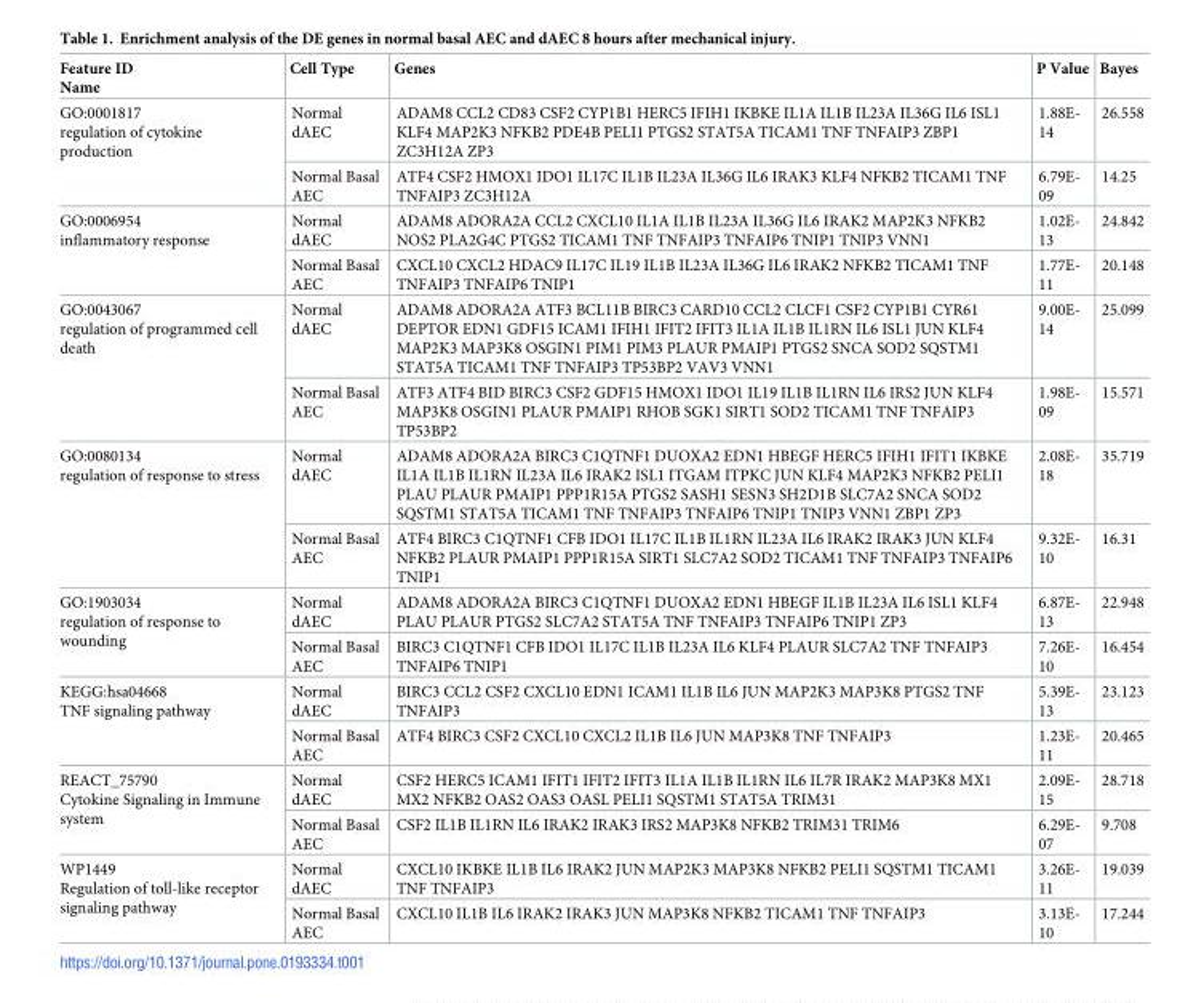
<table><thead><tr><td>Feature ID Name</td><td>Cell Type</td><td>Genes</td><td>P Value</td><td>Bayes</td></tr></thead><tbody><tr><td rowspan="2">GO:0001817 regulation of cytokine production</td><td>Normal dAEC</td><td>ADAM8 CCL2 CD83 CSF2 CYP1B1 HERC5 IFIH1 IKBKE IL1A IL1B IL23A IL36G IL6 ISL1 KLF4 MAP2K3 NFKB2 PDE4B PELI1 PTGS2 STAT5A TICAM1 TNF TNFAIP3 ZBP1 ZC3H12A ZP3</td><td>1.88E- 14</td><td>26.558</td></tr><tr><td>Normal Basal AEC</td><td>ATF4 CSF2 HMOX1 IDO1 IL17C IL1B IL23A IL36G IL6 IRAK3 KLF4 NFKB2 TICAM1 TNF TNFAIP3 ZC3H12A</td><td>6.79E- 09</td><td>14.25</td></tr><tr><td rowspan="2">GO:0006954 inflammatory response</td><td>Normal dAEC</td><td>ADAM8 ADORA2A CCL2 CXCL10 IL1A IL1B IL23A IL36G IL6 IRAK2 MAP2K3 NFKB2 NOS2 PLA2G4C PTGS2 TICAM1 TNF TNFAIP3 TNFAIP6 TNIP1 TNIP3 VNN1</td><td>1.02E- 13</td><td>24.842</td></tr><tr><td>Normal Basal AEC</td><td>CXCL10 CXCL2 HDAC9 IL17C IL19 IL1B IL23A IL36G IL6 IRAK2 NFKB2 TICAM1 TNF TNFAIP3 TNFAIP6 TNIP1</td><td>1.77E- 11</td><td>20.148</td></tr><tr><td rowspan="2">GO:0043067 regulation of programmed cell death</td><td>Normal dAEC</td><td>ADAM8 ADORA2A ATF3 BCL11B BIRC3 CARD10 CCL2 CLCF1 CSF2 CYP1B1 CYR61 DEPTOR EDN1 GDF15 ICAM1 IFIH1 IFIT2 IFIT3 IL1A IL1B IL1RN IL6 ISL1 JUN KLF4 MAP2K3 MAP3K8 OSGIN1 PIM1 PIM3 PLAUR PMAIP1 PTGS2 SNCA SOD2 SQSTM1 STAT5A TICAM1 TNF TNFAIP3 TP53BP2 VAV3 VNN1</td><td>9.00E- 14</td><td>25.099</td></tr><tr><td>Normal Basal AEC</td><td>ATF3 ATF4 BID BIRC3 CSF2 GDF15 HMOX1 IDO1 IL19 IL1B IL1RN IL6 IRS2 JUN KLF4 MAP3K8 OSGIN1 PLAUR PMAIP1 RHOB SGK1 SIRT1 SOD2 TICAM1 TNF TNFAIP3 TP53BP2</td><td>1.98E- 09</td><td>15.571</td></tr><tr><td rowspan="2">GO:0080134 regulation of response to stress</td><td>Normal dAEC</td><td>ADAM8 ADORA2A BIRC3 C1QTNF1 DUOXA2 EDN1 HBEGF HERC5 IFIH1 IFIT1 IKBKE IL1A IL1B IL1RN IL23A IL6 IRAK2 ISL1 ITGAM ITPKC JUN KLF4 MAP2K3 NFKB2 PELI1 PLAU PLAUR PMAIP1 PPP1R15A PTGS2 SASH1 SESN3 SH2D1B SLC7A2 SNCA SOD2 SQSTM1 STAT5A TICAM1 TNF TNFAIP3 TNFAIP6 TNIP1 TNIP3 VNN1 ZBP1 ZP3</td><td>2.08E- 18</td><td>35.719</td></tr><tr><td>Normal Basal AEC</td><td>ATF4 BIRC3 C1QTNF1 CFB IDO1 IL17C IL1B IL1RN IL23A IL6 IRAK2 IRAK3 JUN KLF4 NFKB2 PLAUR PMAIP1 PPP1R15A SIRT1 SLC7A2 SOD2 TICAM1 TNF TNFAIP3 TNFAIP6 TNIP1</td><td>9.32E- 10</td><td>16.31</td></tr><tr><td rowspan="2">GO:1903034 regulation of response to wounding</td><td>Normal dAEC</td><td>ADAM8 ADORA2A BIRC3 C1QTNF1 DUOXA2 EDN1 HBEGF IL1B IL23A IL6 ISL1 KLF4 PLAU PLAUR PTGS2 SLC7A2 STAT5A TNF TNFAIP3 TNFAIP6 TNIP1 ZP3</td><td>6.87E- 13</td><td>22.948</td></tr><tr><td>Normal Basal AEC</td><td>BIRC3 C1QTNF1 CFB IDO1 IL17C IL1B IL23A IL6 KLF4 PLAUR SLC7A2 TNF TNFAIP3 TNFAIP6 TNIP1</td><td>7.26E- 10</td><td>16.454</td></tr><tr><td rowspan="2">KEGG:hsa04668 TNF signaling pathway</td><td>Normal dAEC</td><td>BIRC3 CCL2 CSF2 CXCL10 EDN1 ICAM1 IL1B IL6 JUN MAP2K3 MAP3K8 PTGS2 TNF TNFAIP3</td><td>5.39E- 13</td><td>23.123</td></tr><tr><td>Normal Basal AEC</td><td>ATF4 BIRC3 CSF2 CXCL10 CXCL2 IL1B IL6 JUN MAP3K8 TNF TNFAIP3</td><td>1.23E- 11</td><td>20.465</td></tr><tr><td rowspan="2">REACT_75790 Cytokine Signaling in Immune system</td><td>Normal dAEC</td><td>CSF2 HERC5 ICAM1 IFIT1 IFIT2 IFIT3 IL1A IL1B IL1RN IL6 IL7R IRAK2 MAP3K8 MX1 MX2 NFKB2 OAS2 OAS3 OASL PELI1 SQSTM1 STAT5A TRIM31</td><td>2.09E- 15</td><td>28.718</td></tr><tr><td>Normal Basal AEC</td><td>CSF2 IL1B IL1RN IL6 IRAK2 IRAK3 IRS2 MAP3K8 NFKB2 TRIM31 TRIM6</td><td>6.29E- 07</td><td>9.708</td></tr><tr><td rowspan="2">WP1449 Regulation of toll-like receptor signaling pathway</td><td>Normal dAEC</td><td>CXCL10 IKBKE IL1B IL6 IRAK2 JUN MAP2K3 MAP3K8 NFKB2 PELI1 SQSTM1 TICAM1 TNF TNFAIP3</td><td>3.26E- 11</td><td>19.039</td></tr><tr><td>Normal Basal AEC</td><td>CXCL10 IL1B IL6 IRAK2 IRAK3 JUN MAP3K8 NFKB2 TICAM1 TNF TNFAIP3</td><td>3.13E- 10</td><td>17.244</td></tr></tbody></table>